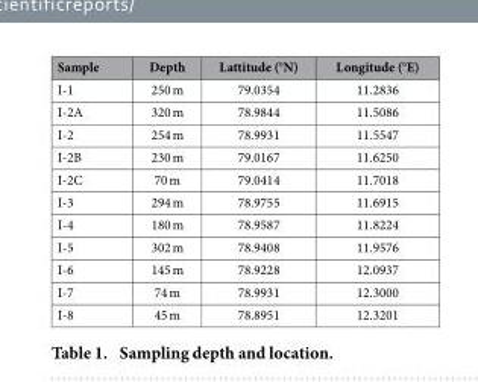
<table><thead><tr><td>Sample</td><td>Depth</td><td>Lattitude (°N)</td><td>Longitude (°E)</td></tr></thead><tbody><tr><td>I-1</td><td>250 m</td><td>79.0354</td><td>11.2836</td></tr><tr><td>I-2A</td><td>320 m</td><td>78.9844</td><td>11.5086</td></tr><tr><td>I-2</td><td>254 m</td><td>78.9931</td><td>11.5547</td></tr><tr><td>I-2B</td><td>230 m</td><td>79.0167</td><td>11.6250</td></tr><tr><td>I-2C</td><td>70 m</td><td>79.0414</td><td>11.7018</td></tr><tr><td>I-3</td><td>294 m</td><td>78.9755</td><td>11.6915</td></tr><tr><td>I-4</td><td>180 m</td><td>78.9587</td><td>11.8224</td></tr><tr><td>I-5</td><td>302 m</td><td>78.9408</td><td>11.9576</td></tr><tr><td>I-6</td><td>145 m</td><td>78.9228</td><td>12.0937</td></tr><tr><td>I-7</td><td>74 m</td><td>78.9931</td><td>12.3000</td></tr><tr><td>I-8</td><td>45 m</td><td>78.8951</td><td>12.3201</td></tr></tbody></table>